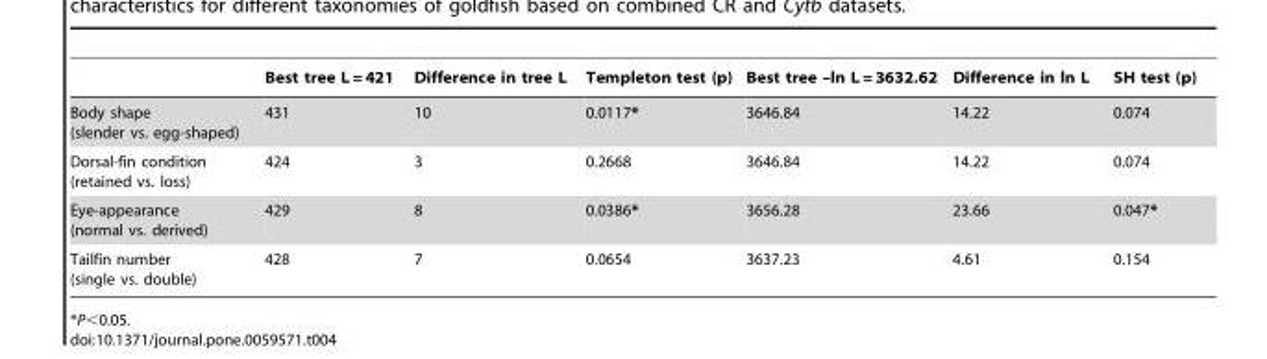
<table><thead><tr><td></td><td>Best tree L = 421</td><td>Difference in tree L</td><td>Templeton test (p)</td><td>Best tree –ln L = 3632.62</td><td>Difference in ln L</td><td>SH test (p)</td></tr></thead><tbody><tr><td>Body shape (slender vs. egg-shaped)</td><td>431</td><td>10</td><td>0.0117*</td><td>3646.84</td><td>14.22</td><td>0.074</td></tr><tr><td>Dorsal-fin condition (retained vs. loss)</td><td>424</td><td>3</td><td>0.2668</td><td>3646.84</td><td>14.22</td><td>0.074</td></tr><tr><td>Eye-appearance (normal vs. derived)</td><td>429</td><td>8</td><td>0.0386*</td><td>3656.28</td><td>23.66</td><td>0.047*</td></tr><tr><td>Tailfin number (single vs. double)</td><td>428</td><td>7</td><td>0.0654</td><td>3637.23</td><td>4.61</td><td>0.154</td></tr></tbody></table>